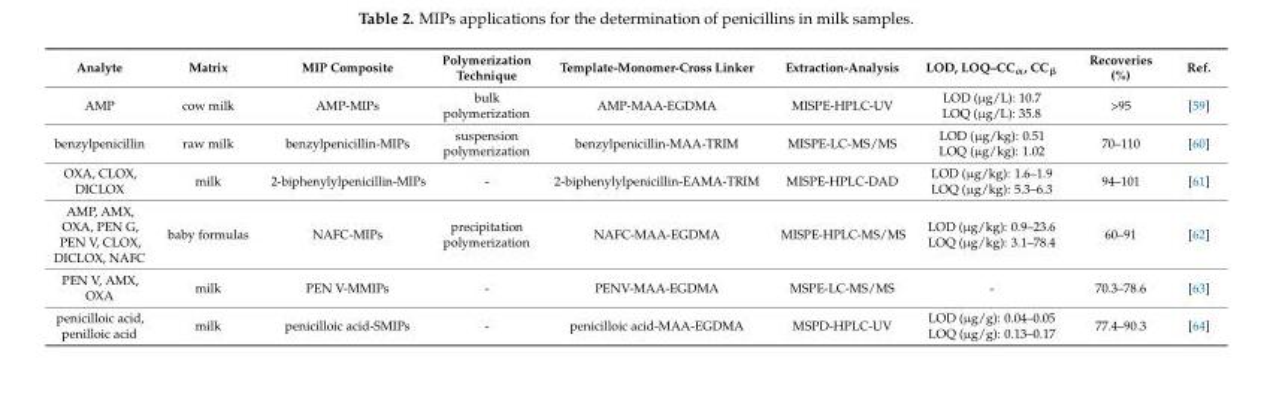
<table><thead><tr><td>Analyte</td><td>Matrix</td><td>MIP Composite</td><td>Polymerization Technique</td><td>Template-Monomer-Cross Linker</td><td>Extraction-Analysis</td><td>LOD, LOQ–CC<sub>α</sub>, CC<sub>β</sub></td><td>Recoveries (%)</td><td>Ref.</td></tr></thead><tbody><tr><td>AMP</td><td>cow milk</td><td>AMP-MIPs</td><td>bulk polymerization</td><td>AMP-MAA-EGDMA</td><td>MISPE-HPLC-UV</td><td>LOD (µg/L): 10.7 LOQ (µg/L): 35.8</td><td>&gt;95</td><td>[59]</td></tr><tr><td>benzylpenicillin</td><td>raw milk</td><td>benzylpenicillin-MIPs</td><td>suspension polymerization</td><td>benzylpenicillin-MAA-TRIM</td><td>MISPE-LC-MS/MS</td><td>LOD (µg/kg): 0.51 LOQ (µg/kg): 1.02</td><td>70–110</td><td>[60]</td></tr><tr><td>OXA, CLOX, DICLOX</td><td>milk</td><td>2-biphenylylpenicillin-MIPs</td><td>-</td><td>2-biphenylylpenicillin-EAMA-TRIM</td><td>MISPE-HPLC-DAD</td><td>LOD (µg/kg): 1.6–1.9 LOQ (µg/kg): 5.3–6.3</td><td>94–101</td><td>[61]</td></tr><tr><td>AMP, AMX, OXA, PEN G, PEN V, CLOX, DICLOX, NAFC</td><td>baby formulas</td><td>NAFC-MIPs</td><td>precipitation polymerization</td><td>NAFC-MAA-EGDMA</td><td>MISPE-HPLC-MS/MS</td><td>LOD (µg/kg): 0.9–23.6 LOQ (µg/kg): 3.1–78.4</td><td>60–91</td><td>[62]</td></tr><tr><td>PEN V, AMX, OXA</td><td>milk</td><td>PEN V-MMIPs</td><td>-</td><td>PENV-MAA-EGDMA</td><td>MSPE-LC-MS/MS</td><td>-</td><td>70.3–78.6</td><td>[63]</td></tr><tr><td>penicilloic acid, penilloic acid</td><td>milk</td><td>penicilloic acid-SMIPs</td><td>-</td><td>penicilloic acid-MAA-EGDMA</td><td>MSPD-HPLC-UV</td><td>LOD (µg/g): 0.04–0.05 LOQ (µg/g): 0.13–0.17</td><td>77.4–90.3</td><td>[64]</td></tr></tbody></table>